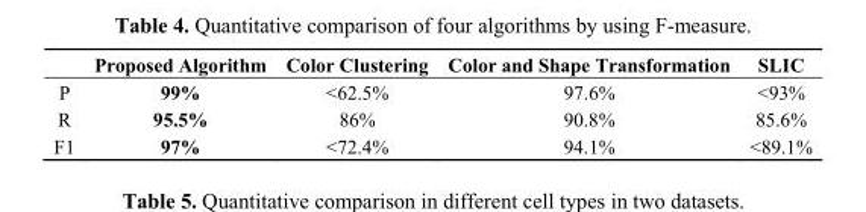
<table><thead><tr><td></td><td>Proposed Algorithm</td><td>Color Clustering</td><td>Color and Shape Transformation</td><td>SLIC</td></tr></thead><tbody><tr><td>P</td><td>99%</td><td>&lt;62.5%</td><td>97.6%</td><td>&lt;93%</td></tr><tr><td>R</td><td>95.5%</td><td>86%</td><td>90.8%</td><td>85.6%</td></tr><tr><td>F1</td><td>97%</td><td>&lt;72.4%</td><td>94.1%</td><td>&lt;89.1%</td></tr></tbody></table>